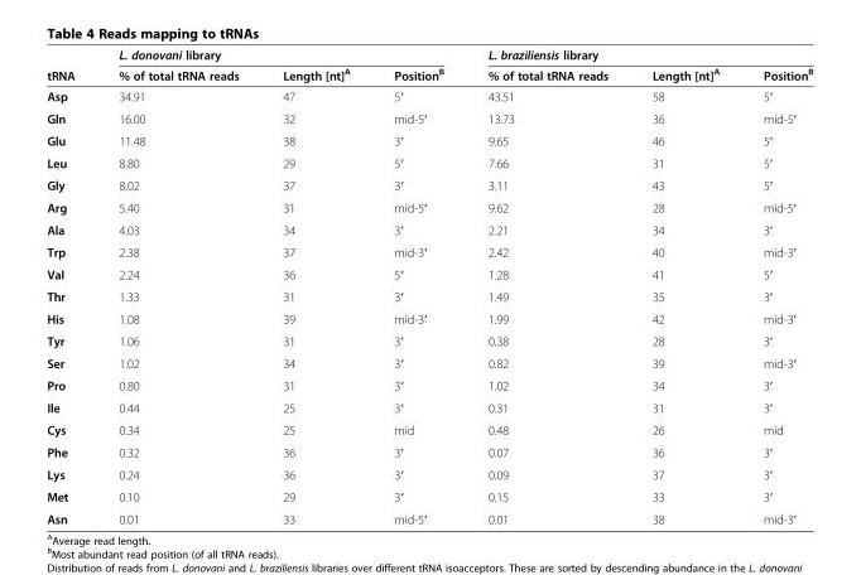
<table><thead><tr><td rowspan="2">tRNA</td><td colspan="3">L. donovani library</td><td colspan="3">L. braziliensis library</td></tr><tr><td>% of total tRNA reads</td><td>Length [nt]<sup>A</sup></td><td>Position<sup>B</sup></td><td>% of total tRNA reads</td><td>Length [nt]<sup>A</sup></td><td>Position<sup>B</sup></td></tr></thead><tbody><tr><td>Asp</td><td>34.91</td><td>47</td><td>5′</td><td>43.51</td><td>58</td><td>5′</td></tr><tr><td>Gln</td><td>16.00</td><td>32</td><td>mid-5′</td><td>13.73</td><td>36</td><td>mid-5′</td></tr><tr><td>Glu</td><td>11.48</td><td>38</td><td>3′</td><td>9.65</td><td>46</td><td>5′</td></tr><tr><td>Leu</td><td>8.80</td><td>29</td><td>5′</td><td>7.66</td><td>31</td><td>5′</td></tr><tr><td>Gly</td><td>8.02</td><td>37</td><td>3′</td><td>3.11</td><td>43</td><td>5′</td></tr><tr><td>Arg</td><td>5.40</td><td>31</td><td>mid-5′</td><td>9.62</td><td>28</td><td>mid-5′</td></tr><tr><td>Ala</td><td>4.03</td><td>34</td><td>3′</td><td>2.21</td><td>34</td><td>3′</td></tr><tr><td>Trp</td><td>2.38</td><td>37</td><td>mid-3′</td><td>2.42</td><td>40</td><td>mid-3′</td></tr><tr><td>Val</td><td>2.24</td><td>36</td><td>5′</td><td>1.28</td><td>41</td><td>5′</td></tr><tr><td>Thr</td><td>1.33</td><td>31</td><td>3′</td><td>1.49</td><td>35</td><td>3′</td></tr><tr><td>His</td><td>1.08</td><td>39</td><td>mid-3′</td><td>1.99</td><td>42</td><td>mid-3′</td></tr><tr><td>Tyr</td><td>1.06</td><td>31</td><td>3′</td><td>0.38</td><td>28</td><td>3′</td></tr><tr><td>Ser</td><td>1.02</td><td>34</td><td>3′</td><td>0.82</td><td>39</td><td>mid-3′</td></tr><tr><td>Pro</td><td>0.80</td><td>31</td><td>3′</td><td>1.02</td><td>34</td><td>3′</td></tr><tr><td>Ile</td><td>0.44</td><td>25</td><td>3′</td><td>0.31</td><td>31</td><td>3′</td></tr><tr><td>Cys</td><td>0.34</td><td>25</td><td>mid</td><td>0.48</td><td>26</td><td>mid</td></tr><tr><td>Phe</td><td>0.32</td><td>36</td><td>3′</td><td>0.07</td><td>36</td><td>3′</td></tr><tr><td>Lys</td><td>0.24</td><td>36</td><td>3′</td><td>0.09</td><td>37</td><td>3′</td></tr><tr><td>Met</td><td>0.10</td><td>29</td><td>3′</td><td>0.15</td><td>33</td><td>3′</td></tr><tr><td>Asn</td><td>0.01</td><td>33</td><td>mid-5′</td><td>0.01</td><td>38</td><td>mid-3′</td></tr></tbody></table>